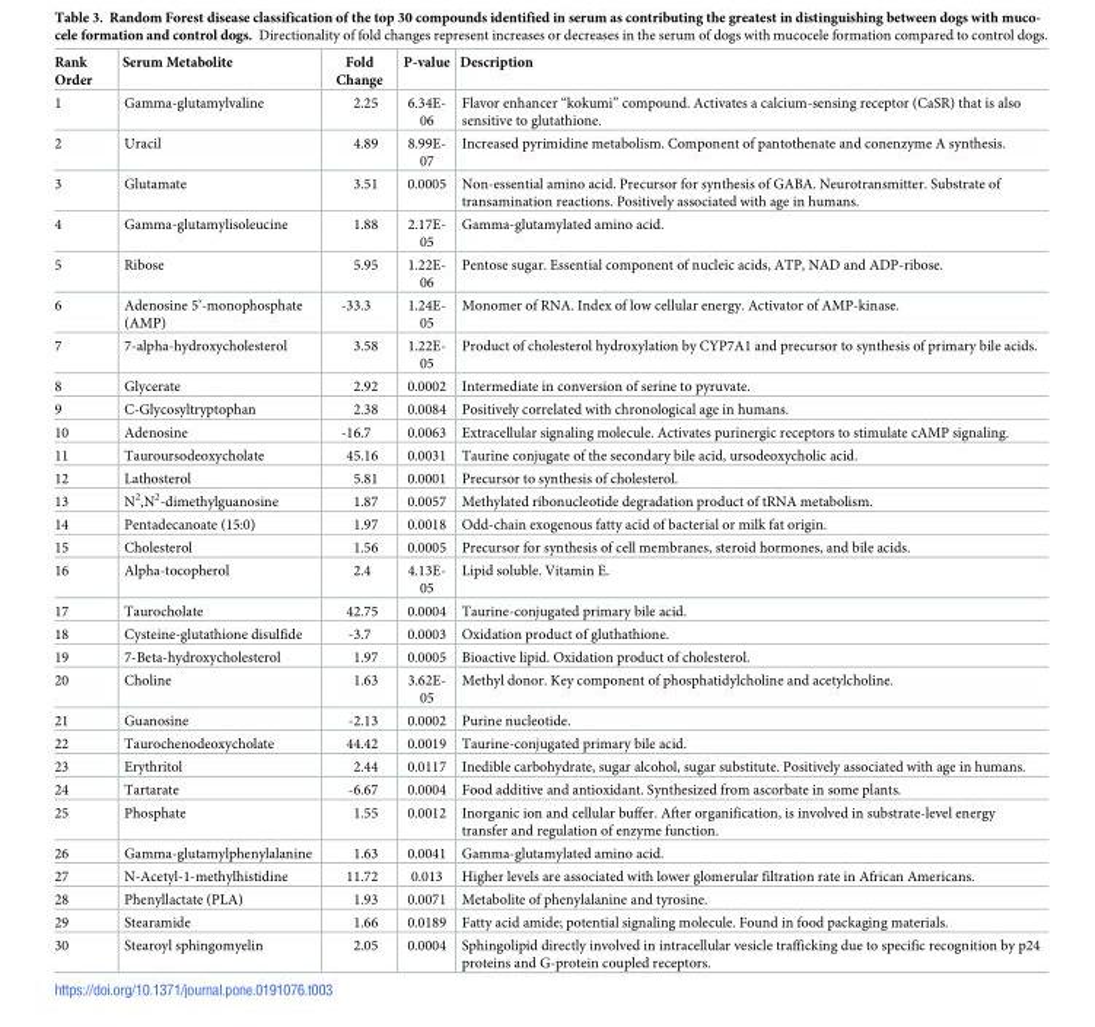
<table><thead><tr><td>Rank Order</td><td>Serum Metabolite</td><td>Fold Change</td><td>P-value</td><td>Description</td></tr></thead><tbody><tr><td>1</td><td>Gamma-glutamylvaline</td><td>2.25</td><td>6.34E- 06</td><td>Flavor enhancer “kokumi” compound. Activates a calcium-sensing receptor (CaSR) that is also sensitive to glutathione.</td></tr><tr><td>2</td><td>Uracil</td><td>4.89</td><td>8.99E- 07</td><td>Increased pyrimidine metabolism. Component of pantothenate and conenzyme A synthesis.</td></tr><tr><td>3</td><td>Glutamate</td><td>3.51</td><td>0.0005</td><td>Non-essential amino acid. Precursor for synthesis of GABA. Neurotransmitter. Substrate of transamination reactions. Positively associated with age in humans.</td></tr><tr><td>4</td><td>Gamma-glutamylisoleucine</td><td>1.88</td><td>2.17E- 05</td><td>Gamma-glutamylated amino acid.</td></tr><tr><td>5</td><td>Ribose</td><td>5.95</td><td>1.22E- 06</td><td>Pentose sugar. Essential component of nucleic acids, ATP, NAD and ADP-ribose.</td></tr><tr><td>6</td><td>Adenosine 5’-monophosphate (AMP)</td><td>-33.3</td><td>1.24E- 05</td><td>Monomer of RNA. Index of low cellular energy. Activator of AMP-kinase.</td></tr><tr><td>7</td><td>7-alpha-hydroxycholesterol</td><td>3.58</td><td>1.22E- 05</td><td>Product of cholesterol hydroxylation by CYP7A1 and precursor to synthesis of primary bile acids.</td></tr><tr><td>8</td><td>Glycerate</td><td>2.92</td><td>0.0002</td><td>Intermediate in conversion of serine to pyruvate.</td></tr><tr><td>9</td><td>C-Glycosyltryptophan</td><td>2.38</td><td>0.0084</td><td>Positively correlated with chronological age in humans.</td></tr><tr><td>10</td><td>Adenosine</td><td>-16.7</td><td>0.0063</td><td>Extracellular signaling molecule. Activates purinergic receptors to stimulate cAMP signaling.</td></tr><tr><td>11</td><td>Tauroursodeoxycholate</td><td>45.16</td><td>0.0031</td><td>Taurine conjugate of the secondary bile acid, ursodeoxycholic acid.</td></tr><tr><td>12</td><td>Lathosterol</td><td>5.81</td><td>0.0001</td><td>Precursor to synthesis of cholesterol.</td></tr><tr><td>13</td><td>N<sup>2</sup>,N<sup>2</sup>-dimethylguanosine</td><td>1.87</td><td>0.0057</td><td>Methylated ribonucleotide degradation product of tRNA metabolism.</td></tr><tr><td>14</td><td>Pentadecanoate (15:0)</td><td>1.97</td><td>0.0018</td><td>Odd-chain exogenous fatty acid of bacterial or milk fat origin.</td></tr><tr><td>15</td><td>Cholesterol</td><td>1.56</td><td>0.0005</td><td>Precursor for synthesis of cell membranes, steroid hormones, and bile acids.</td></tr><tr><td>16</td><td>Alpha-tocopherol</td><td>2.4</td><td>4.13E- 05</td><td>Lipid soluble. Vitamin E.</td></tr><tr><td>17</td><td>Taurocholate</td><td>42.75</td><td>0.0004</td><td>Taurine-conjugated primary bile acid.</td></tr><tr><td>18</td><td>Cysteine-glutathione disulfide</td><td>-3.7</td><td>0.0003</td><td>Oxidation product of gluthathione.</td></tr><tr><td>19</td><td>7-Beta-hydroxycholesterol</td><td>1.97</td><td>0.0005</td><td>Bioactive lipid. Oxidation product of cholesterol.</td></tr><tr><td>20</td><td>Choline</td><td>1.63</td><td>3.62E- 05</td><td>Methyl donor. Key component of phosphatidylcholine and acetylcholine.</td></tr><tr><td>21</td><td>Guanosine</td><td>-2.13</td><td>0.0002</td><td>Purine nucleotide.</td></tr><tr><td>22</td><td>Taurochenodeoxycholate</td><td>44.42</td><td>0.0019</td><td>Taurine-conjugated primary bile acid.</td></tr><tr><td>23</td><td>Erythritol</td><td>2.44</td><td>0.0117</td><td>Inedible carbohydrate, sugar alcohol, sugar substitute. Positively associated with age in humans.</td></tr><tr><td>24</td><td>Tartarate</td><td>-6.67</td><td>0.0004</td><td>Food additive and antioxidant. Synthesized from ascorbate in some plants.</td></tr><tr><td>25</td><td>Phosphate</td><td>1.55</td><td>0.0012</td><td>Inorganic ion and cellular buffer. After organification, is involved in substrate-level energy transfer and regulation of enzyme function.</td></tr><tr><td>26</td><td>Gamma-glutamylphenylalanine</td><td>1.63</td><td>0.0041</td><td>Gamma-glutamylated amino acid.</td></tr><tr><td>27</td><td>N-Acetyl-1-methylhistidine</td><td>11.72</td><td>0.013</td><td>Higher levels are associated with lower glomerular filtration rate in African Americans.</td></tr><tr><td>28</td><td>Phenyllactate (PLA)</td><td>1.93</td><td>0.0071</td><td>Metabolite of phenylalanine and tyrosine.</td></tr><tr><td>29</td><td>Stearamide</td><td>1.66</td><td>0.0189</td><td>Fatty acid amide; potential signaling molecule. Found in food packaging materials.</td></tr><tr><td>30</td><td>Stearoyl sphingomyelin</td><td>2.05</td><td>0.0004</td><td>Sphingolipid directly involved in intracellular vesicle trafficking due to specific recognition by p24 proteins and G-protein coupled receptors.</td></tr></tbody></table>